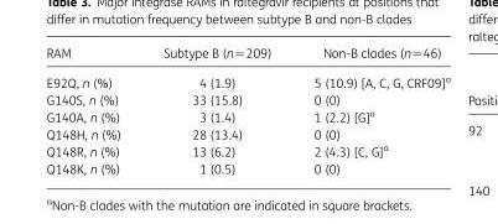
<table><thead><tr><td>RAM</td><td>Subtype B (n=209)</td><td>Non-B clades (n=46)</td></tr></thead><tbody><tr><td>E92Q, n (%)</td><td>4 (1.9)</td><td>5 (10.9) [A, C, G, CRF09]<sup>a</sup></td></tr><tr><td>G140S, n (%)</td><td>33 (15.8)</td><td>0 (0)</td></tr><tr><td>G140A, n (%)</td><td>3 (1.4)</td><td>1 (2.2) [G]<sup>a</sup></td></tr><tr><td>Q148H, n (%)</td><td>28 (13.4)</td><td>0 (0)</td></tr><tr><td>Q148R, n (%)</td><td>13 (6.2)</td><td>2 (4.3) [C, G]<sup>a</sup></td></tr><tr><td>Q148K, n (%)</td><td>1 (0.5)</td><td>0 (0)</td></tr></tbody></table>